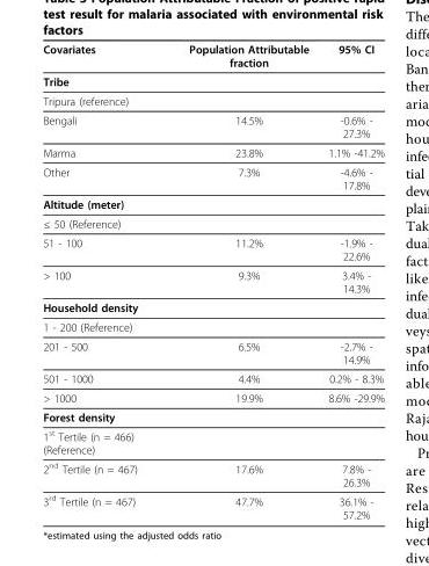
<table><thead><tr><td>Covariates</td><td>Population Attributable fraction</td><td>95% CI</td></tr></thead><tbody><tr><td colspan="3">Tribe</td></tr><tr><td colspan="3">Tripura (reference)</td></tr><tr><td>Bengali</td><td>14.5%</td><td>-0.6% - 27.3%</td></tr><tr><td>Marma</td><td>23.8%</td><td>1.1% -41.2%</td></tr><tr><td>Other</td><td>7.3%</td><td>-4.6% - 17.8%</td></tr><tr><td colspan="3">Altitude (meter)</td></tr><tr><td colspan="3">≤ 50 (Reference)</td></tr><tr><td>51 - 100</td><td>11.2%</td><td>-1.9% - 22.6%</td></tr><tr><td>&gt; 100</td><td>9.3%</td><td>3.4% - 14.3%</td></tr><tr><td colspan="3">Household density</td></tr><tr><td colspan="3">1 - 200 (Reference)</td></tr><tr><td>201 - 500</td><td>6.5%</td><td>-2.7% - 14.9%</td></tr><tr><td>501 - 1000</td><td>4.4%</td><td>0.2% - 8.3%</td></tr><tr><td>&gt; 1000</td><td>19.9%</td><td>8.6% -29.9%</td></tr><tr><td colspan="3">Forest density</td></tr><tr><td colspan="3">1<sup>st</sup> Tertile (n = 466) (Reference)</td></tr><tr><td>2<sup>nd</sup> Tertile (n = 467)</td><td>17.6%</td><td>7.8% - 26.3%</td></tr><tr><td>3<sup>rd</sup> Tertile (n = 467)</td><td>47.7%</td><td>36.1% - 57.2%</td></tr></tbody></table>